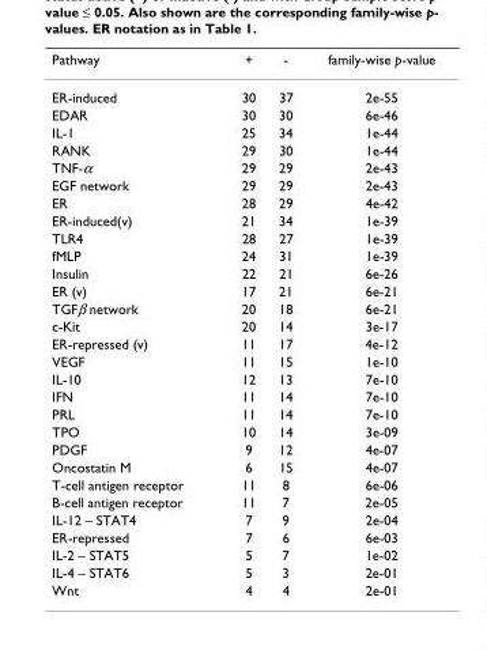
<table><thead><tr><td>Pathway</td><td>+</td><td>-</td><td>family-wise p-value</td></tr></thead><tbody><tr><td>ER-induced</td><td>30</td><td>37</td><td>2e-55</td></tr><tr><td>EDAR</td><td>30</td><td>30</td><td>6e-46</td></tr><tr><td>IL-1</td><td>25</td><td>34</td><td>1e-44</td></tr><tr><td>RANK</td><td>29</td><td>30</td><td>1e-44</td></tr><tr><td>TNF-α</td><td>29</td><td>29</td><td>2e-43</td></tr><tr><td>EGF network</td><td>29</td><td>29</td><td>2e-43</td></tr><tr><td>ER</td><td>28</td><td>29</td><td>4e-42</td></tr><tr><td>ER-induced(v)</td><td>21</td><td>34</td><td>1e-39</td></tr><tr><td>TLR4</td><td>28</td><td>27</td><td>1e-39</td></tr><tr><td>fMLP</td><td>24</td><td>31</td><td>1e-39</td></tr><tr><td>Insulin</td><td>22</td><td>21</td><td>6e-26</td></tr><tr><td>ER (v)</td><td>17</td><td>21</td><td>6e-21</td></tr><tr><td>TGFβ network</td><td>20</td><td>18</td><td>6e-21</td></tr><tr><td>c-Kit</td><td>20</td><td>14</td><td>3e-17</td></tr><tr><td>ER-repressed (v)</td><td>11</td><td>17</td><td>4e-12</td></tr><tr><td>VEGF</td><td>11</td><td>15</td><td>1e-10</td></tr><tr><td>IL-10</td><td>12</td><td>13</td><td>7e-10</td></tr><tr><td>IFN</td><td>11</td><td>14</td><td>7e-10</td></tr><tr><td>PRL</td><td>11</td><td>14</td><td>7e-10</td></tr><tr><td>TPO</td><td>10</td><td>14</td><td>3e-09</td></tr><tr><td>PDGF</td><td>9</td><td>12</td><td>4e-07</td></tr><tr><td>Oncostatin M</td><td>6</td><td>15</td><td>4e-07</td></tr><tr><td>T-cell antigen receptor</td><td>11</td><td>8</td><td>6e-06</td></tr><tr><td>B-cell antigen receptor</td><td>11</td><td>7</td><td>2e-05</td></tr><tr><td>IL-12 – STAT4</td><td>7</td><td>9</td><td>2e-04</td></tr><tr><td>ER-repressed</td><td>7</td><td>6</td><td>6e-03</td></tr><tr><td>IL-2 – STAT5</td><td>5</td><td>7</td><td>1e-02</td></tr><tr><td>IL-4 – STAT6</td><td>5</td><td>3</td><td>2e-01</td></tr><tr><td>Wnt</td><td>4</td><td>4</td><td>2e-01</td></tr></tbody></table>